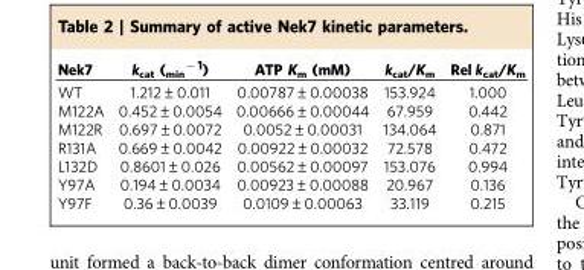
<table><thead><tr><td>Nek7</td><td>k<sub>cat</sub> (<sub>min</sub><sup>− 1</sup>)</td><td>ATP K<sub>m</sub> (mM)</td><td>k<sub>cat</sub>/K<sub>m</sub></td><td>Rel k<sub>cat</sub>/K<sub>m</sub></td></tr></thead><tbody><tr><td>WT</td><td>1.212±0.011</td><td>0.00787±0.00038</td><td>153.924</td><td>1.000</td></tr><tr><td>M122A</td><td>0.452±0.0054</td><td>0.00666±0.00044</td><td>67.959</td><td>0.442</td></tr><tr><td>M122R</td><td>0.697±0.0072</td><td>0.0052±0.00031</td><td>134.064</td><td>0.871</td></tr><tr><td>R131A</td><td>0.669±0.0042</td><td>0.00922±0.00032</td><td>72.578</td><td>0.472</td></tr><tr><td>L132D</td><td>0.8601±0.026</td><td>0.00562±0.00097</td><td>153.076</td><td>0.994</td></tr><tr><td>Y97A</td><td>0.194±0.0034</td><td>0.00923±0.00088</td><td>20.967</td><td>0.136</td></tr><tr><td>Y97F</td><td>0.36±0.0039</td><td>0.0109±0.00063</td><td>33.119</td><td>0.215</td></tr></tbody></table>